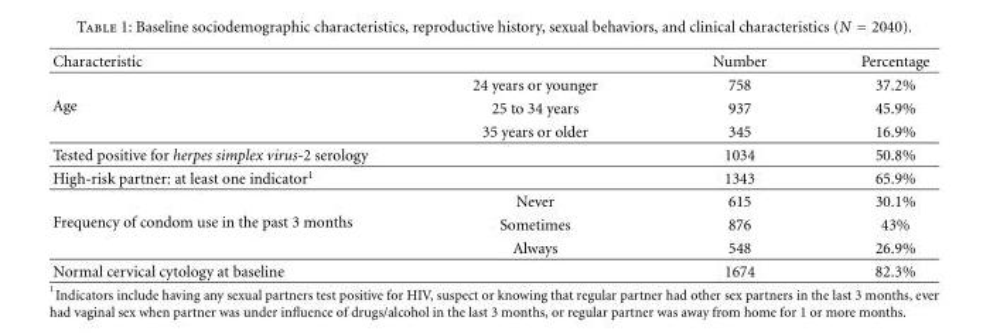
<table><thead><tr><td>Characteristic</td><td></td><td>Number</td><td>Percentage</td></tr></thead><tbody><tr><td rowspan="3">Age</td><td>24 years or younger</td><td>758</td><td>37.2%</td></tr><tr><td>25 to 34 years</td><td>937</td><td>45.9%</td></tr><tr><td>35 years or older</td><td>345</td><td>16.9%</td></tr><tr><td>Tested positive for herpes simplex virus-2 serology</td><td></td><td>1034</td><td>50.8%</td></tr><tr><td>High-risk partner: at least one indicator<sup>1</sup></td><td></td><td>1343</td><td>65.9%</td></tr><tr><td rowspan="3">Frequency of condom use in the past 3 months</td><td>Never</td><td>615</td><td>30.1%</td></tr><tr><td>Sometimes</td><td>876</td><td>43%</td></tr><tr><td>Always</td><td>548</td><td>26.9%</td></tr><tr><td>Normal cervical cytology at baseline</td><td></td><td>1674</td><td>82.3%</td></tr></tbody></table>